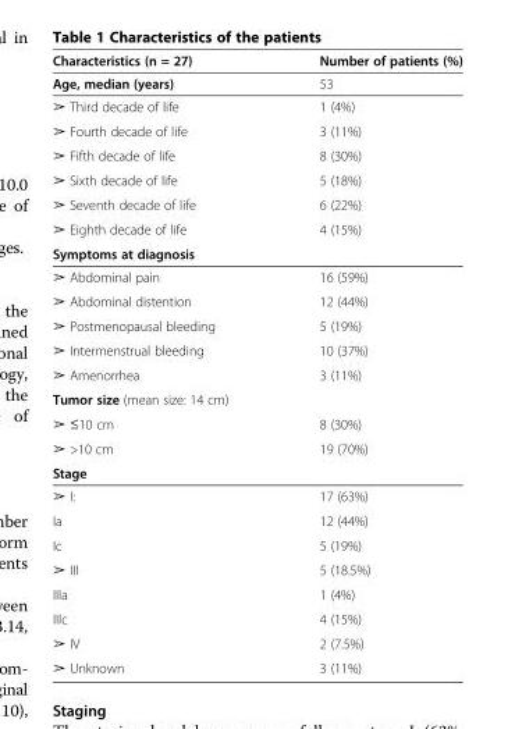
<table><thead><tr><td>Characteristics (n = 27)</td><td>Number of patients (%)</td></tr></thead><tbody><tr><td>Age, median (years)</td><td>53</td></tr><tr><td>➢ Third decade of life</td><td>1 (4%)</td></tr><tr><td>➢ Fourth decade of life</td><td>3 (11%)</td></tr><tr><td>➢ Fifth decade of life</td><td>8 (30%)</td></tr><tr><td>➢ Sixth decade of life</td><td>5 (18%)</td></tr><tr><td>➢ Seventh decade of life</td><td>6 (22%)</td></tr><tr><td>➢ Eighth decade of life</td><td>4 (15%)</td></tr><tr><td colspan="2">Symptoms at diagnosis</td></tr><tr><td>➢ Abdominal pain</td><td>16 (59%)</td></tr><tr><td>➢ Abdominal distention</td><td>12 (44%)</td></tr><tr><td>➢ Postmenopausal bleeding</td><td>5 (19%)</td></tr><tr><td>➢ Intermenstrual bleeding</td><td>10 (37%)</td></tr><tr><td>➢ Amenorrhea</td><td>3 (11%)</td></tr><tr><td colspan="2">Tumor size (mean size: 14 cm)</td></tr><tr><td>➢ ≤10 cm</td><td>8 (30%)</td></tr><tr><td>➢ &gt;10 cm</td><td>19 (70%)</td></tr><tr><td colspan="2">Stage</td></tr><tr><td>➢ I:</td><td>17 (63%)</td></tr><tr><td>Ia</td><td>12 (44%)</td></tr><tr><td>Ic</td><td>5 (19%)</td></tr><tr><td>➢ III</td><td>5 (18.5%)</td></tr><tr><td>IIIa</td><td>1 (4%)</td></tr><tr><td>IIIc</td><td>4 (15%)</td></tr><tr><td>➢ IV</td><td>2 (7.5%)</td></tr><tr><td>➢ Unknown</td><td>3 (11%)</td></tr></tbody></table>